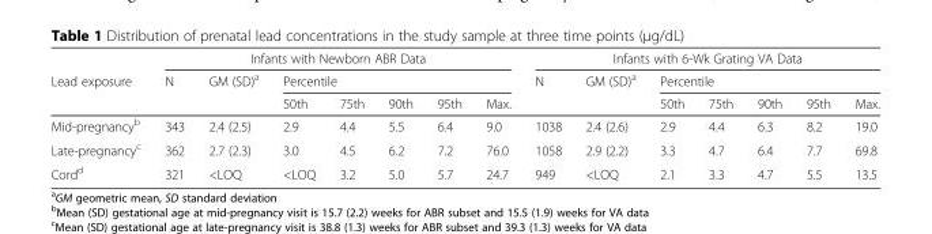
<table><thead><tr><td rowspan="3">Lead exposure</td><td colspan="7">Infants with Newborn ABR Data</td><td colspan="7">Infants with 6-Wk Grating VA Data</td></tr><tr><td rowspan="2">N</td><td rowspan="2">GM (SD)<sup>a</sup></td><td colspan="5">Percentile</td><td rowspan="2">N</td><td rowspan="2">GM (SD)<sup>a</sup></td><td colspan="5">Percentile</td></tr><tr><td>50th</td><td>75th</td><td>90th</td><td>95th</td><td>Max.</td><td>50th</td><td>75th</td><td>90th</td><td>95th</td><td>Max.</td></tr></thead><tbody><tr><td>Mid-pregnancy<sup>b</sup></td><td>343</td><td>2.4 (2.5)</td><td>2.9</td><td>4.4</td><td>5.5</td><td>6.4</td><td>9.0</td><td>1038</td><td>2.4 (2.6)</td><td>2.9</td><td>4.4</td><td>6.3</td><td>8.2</td><td>19.0</td></tr><tr><td>Late-pregnancy<sup>c</sup></td><td>362</td><td>2.7 (2.3)</td><td>3.0</td><td>4.5</td><td>6.2</td><td>7.2</td><td>76.0</td><td>1058</td><td>2.9 (2.2)</td><td>3.3</td><td>4.7</td><td>6.4</td><td>7.7</td><td>69.8</td></tr><tr><td>Cord<sup>d</sup></td><td>321</td><td>&lt;LOQ</td><td>&lt;LOQ</td><td>3.2</td><td>5.0</td><td>5.7</td><td>24.7</td><td>949</td><td>&lt;LOQ</td><td>2.1</td><td>3.3</td><td>4.7</td><td>5.5</td><td>13.5</td></tr></tbody></table>